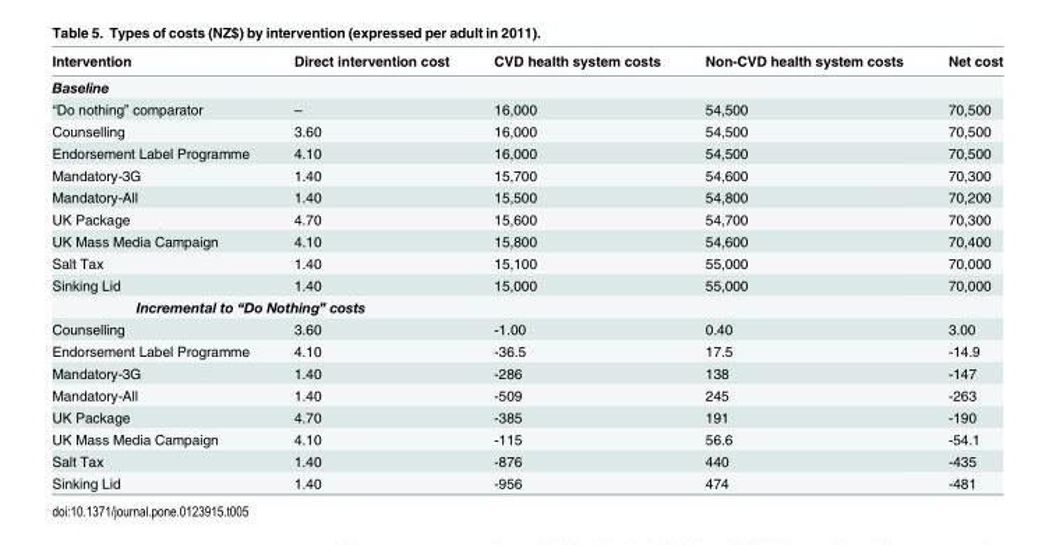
<table><thead><tr><td>Intervention</td><td>Direct intervention cost</td><td>CVD health system costs</td><td>Non-CVD health system costs</td><td>Net cost</td></tr></thead><tbody><tr><td colspan="5">Baseline</td></tr><tr><td>“Do nothing” comparator</td><td>–</td><td>16,000</td><td>54,500</td><td>70,500</td></tr><tr><td>Counselling</td><td>3.60</td><td>16,000</td><td>54,500</td><td>70,500</td></tr><tr><td>Endorsement Label Programme</td><td>4.10</td><td>16,000</td><td>54,500</td><td>70,500</td></tr><tr><td>Mandatory-3G</td><td>1.40</td><td>15,700</td><td>54,600</td><td>70,300</td></tr><tr><td>Mandatory-All</td><td>1.40</td><td>15,500</td><td>54,800</td><td>70,200</td></tr><tr><td>UK Package</td><td>4.70</td><td>15,600</td><td>54,700</td><td>70,300</td></tr><tr><td>UK Mass Media Campaign</td><td>4.10</td><td>15,800</td><td>54,600</td><td>70,400</td></tr><tr><td>Salt Tax</td><td>1.40</td><td>15,100</td><td>55,000</td><td>70,000</td></tr><tr><td>Sinking Lid</td><td>1.40</td><td>15,000</td><td>55,000</td><td>70,000</td></tr><tr><td colspan="5">Incremental to “Do Nothing” costs</td></tr><tr><td>Counselling</td><td>3.60</td><td>-1.00</td><td>0.40</td><td>3.00</td></tr><tr><td>Endorsement Label Programme</td><td>4.10</td><td>-36.5</td><td>17.5</td><td>-14.9</td></tr><tr><td>Mandatory-3G</td><td>1.40</td><td>-286</td><td>138</td><td>-147</td></tr><tr><td>Mandatory-All</td><td>1.40</td><td>-509</td><td>245</td><td>-263</td></tr><tr><td>UK Package</td><td>4.70</td><td>-385</td><td>191</td><td>-190</td></tr><tr><td>UK Mass Media Campaign</td><td>4.10</td><td>-115</td><td>56.6</td><td>-54.1</td></tr><tr><td>Salt Tax</td><td>1.40</td><td>-876</td><td>440</td><td>-435</td></tr><tr><td>Sinking Lid</td><td>1.40</td><td>-956</td><td>474</td><td>-481</td></tr></tbody></table>